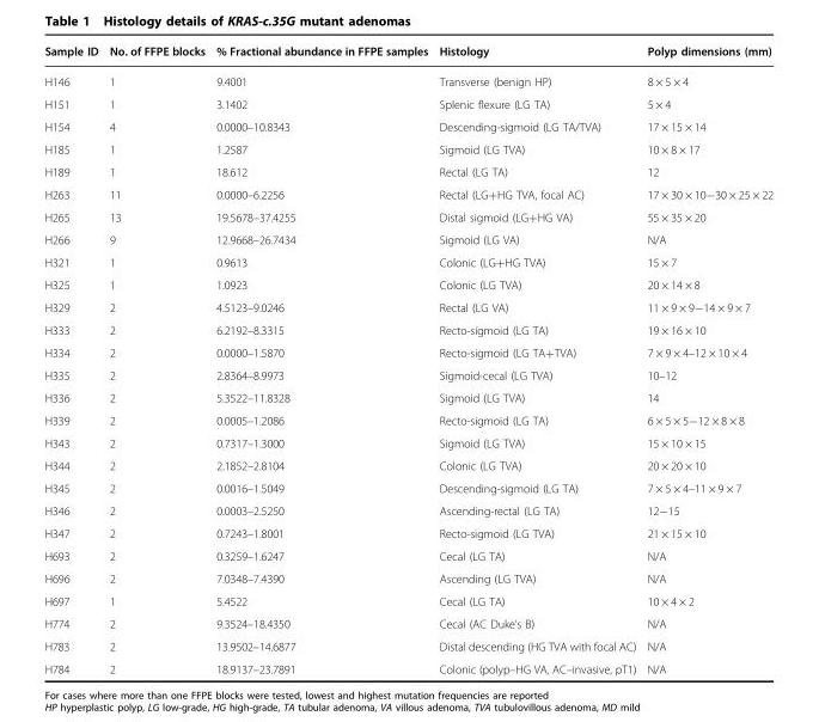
<table><thead><tr><td>Sample ID</td><td>No. of FFPE blocks</td><td>% Fractional abundance in FFPE samples</td><td>Histology</td><td>Polyp dimensions (mm)</td></tr></thead><tbody><tr><td>H146</td><td>1</td><td>9.4001</td><td>Transverse (benign HP)</td><td>8 × 5 × 4</td></tr><tr><td>H151</td><td>1</td><td>3.1402</td><td>Splenic flexure (LG TA)</td><td>5 × 4</td></tr><tr><td>H154</td><td>4</td><td>0.0000–10.8343</td><td>Descending-sigmoid (LG TA/TVA)</td><td>17 × 15 × 14</td></tr><tr><td>H185</td><td>1</td><td>1.2587</td><td>Sigmoid (LG TVA)</td><td>10 × 8 × 17</td></tr><tr><td>H189</td><td>1</td><td>18.612</td><td>Rectal (LG TA)</td><td>12</td></tr><tr><td>H263</td><td>11</td><td>0.0000–6.2256</td><td>Rectal (LG+HG TVA, focal AC)</td><td>17 × 30 × 10−30 × 25 × 22</td></tr><tr><td>H265</td><td>13</td><td>19.5678–37.4255</td><td>Distal sigmoid (LG+HG VA)</td><td>55 × 35 × 20</td></tr><tr><td>H266</td><td>9</td><td>12.9668–26.7434</td><td>Sigmoid (LG VA)</td><td>N/A</td></tr><tr><td>H321</td><td>1</td><td>0.9613</td><td>Colonic (LG+HG TVA)</td><td>15 × 7</td></tr><tr><td>H325</td><td>1</td><td>1.0923</td><td>Colonic (LG TVA)</td><td>20 × 14 × 8</td></tr><tr><td>H329</td><td>2</td><td>4.5123–9.0246</td><td>Rectal (LG VA)</td><td>11 × 9 × 9−14 × 9 × 7</td></tr><tr><td>H333</td><td>2</td><td>6.2192–8.3315</td><td>Recto-sigmoid (LG TA)</td><td>19 × 16 × 10</td></tr><tr><td>H334</td><td>2</td><td>0.0000–1.5870</td><td>Recto-sigmoid (LG TA+TVA)</td><td>7 × 9 × 4–12 × 10 × 4</td></tr><tr><td>H335</td><td>2</td><td>2.8364–8.9973</td><td>Sigmoid-cecal (LG TVA)</td><td>10–12</td></tr><tr><td>H336</td><td>2</td><td>5.3522–11.8328</td><td>Sigmoid (LG TVA)</td><td>14</td></tr><tr><td>H339</td><td>2</td><td>0.0005–1.2086</td><td>Recto-sigmoid (LG TA)</td><td>6 × 5 × 5−12 × 8 × 8</td></tr><tr><td>H343</td><td>2</td><td>0.7317–1.3000</td><td>Sigmoid (LG TVA)</td><td>15 × 10 × 15</td></tr><tr><td>H344</td><td>2</td><td>2.1852–2.8104</td><td>Colonic (LG TVA)</td><td>20 × 20 × 10</td></tr><tr><td>H345</td><td>2</td><td>0.0016–1.5049</td><td>Descending-sigmoid (LG TA)</td><td>7 × 5 × 4–11 × 9 × 7</td></tr><tr><td>H346</td><td>2</td><td>0.0003–2.5250</td><td>Ascending-rectal (LG TA)</td><td>12−15</td></tr><tr><td>H347</td><td>2</td><td>0.7243–1.8001</td><td>Recto-sigmoid (LG TVA)</td><td>21 × 15 × 10</td></tr><tr><td>H693</td><td>2</td><td>0.3259–1.6247</td><td>Cecal (LG TA)</td><td>N/A</td></tr><tr><td>H696</td><td>2</td><td>7.0348–7.4390</td><td>Ascending (LG TVA)</td><td>N/A</td></tr><tr><td>H697</td><td>1</td><td>5.4522</td><td>Cecal (LG TA)</td><td>10 × 4 × 2</td></tr><tr><td>H774</td><td>2</td><td>9.3524–18.4350</td><td>Cecal (AC Duke’s B)</td><td>N/A</td></tr><tr><td>H783</td><td>2</td><td>13.9502–14.6877</td><td>Distal descending (HG TVA with focal AC)</td><td>N/A</td></tr><tr><td>H784</td><td>2</td><td>18.9137–23.7891</td><td>Colonic (polyp–HG VA, AC–invasive, pT1)</td><td>N/A</td></tr></tbody></table>